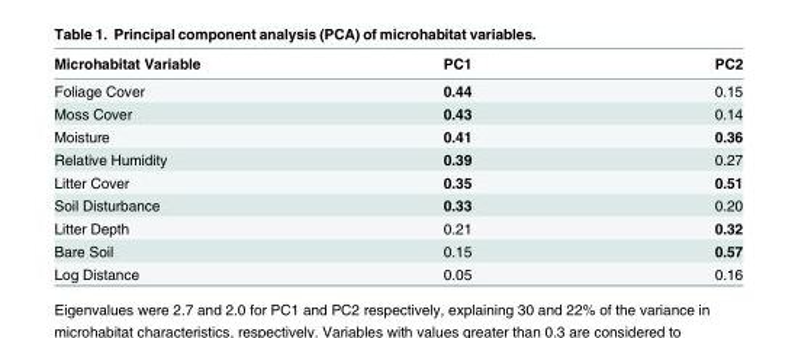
<table><thead><tr><td>Microhabitat Variable</td><td>PC1</td><td>PC2</td></tr></thead><tbody><tr><td>Foliage Cover</td><td>0.44</td><td>0.15</td></tr><tr><td>Moss Cover</td><td>0.43</td><td>0.14</td></tr><tr><td>Moisture</td><td>0.41</td><td>0.36</td></tr><tr><td>Relative Humidity</td><td>0.39</td><td>0.27</td></tr><tr><td>Litter Cover</td><td>0.35</td><td>0.51</td></tr><tr><td>Soil Disturbance</td><td>0.33</td><td>0.20</td></tr><tr><td>Litter Depth</td><td>0.21</td><td>0.32</td></tr><tr><td>Bare Soil</td><td>0.15</td><td>0.57</td></tr><tr><td>Log Distance</td><td>0.05</td><td>0.16</td></tr></tbody></table>